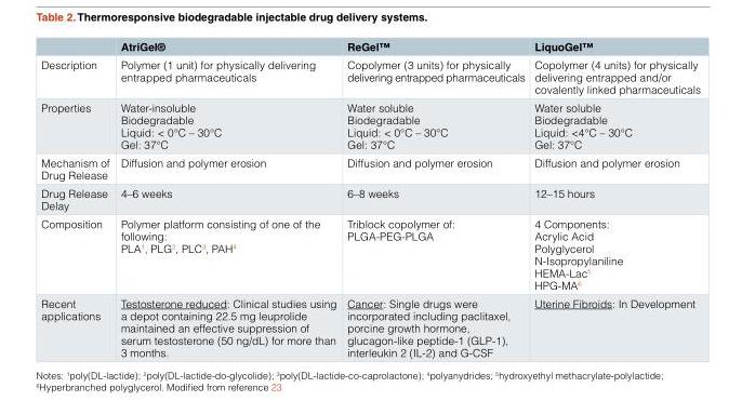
<table><thead><tr><td></td><td>AtriGel®</td><td>ReGel™</td><td>LiquoGel™</td></tr></thead><tbody><tr><td>Description</td><td>Polymer (1 unit) for physically delivering entrapped pharmaceuticals</td><td>Copolymer (3 units) for physically delivering entrapped pharmaceuticals</td><td>Copolymer (4 units) for physically delivering entrapped and/or covalently linked pharmaceuticals</td></tr><tr><td>Properties</td><td>Water-insoluble Biodegradable Liquid: &lt; 0°C – 30°C Gel: 37°C</td><td>Water soluble Biodegradable Liquid: &lt; 0°C – 30°C Gel: 37°C</td><td>Water soluble Biodegradable Liquid: &lt;4°C – 30°C Gel: 37°C</td></tr><tr><td>Mechanism of Drug Release</td><td>Diffusion and polymer erosion</td><td>Diffusion and polymer erosion</td><td>Diffusion and polymer erosion</td></tr><tr><td>Drug Release Delay</td><td>4–6 weeks</td><td>6–8 weeks</td><td>12–15 hours</td></tr><tr><td>Composition</td><td>Polymer platform consisting of one of the following: PLA<sup>1</sup>, PLG<sup>2</sup>, PLC<sup>3</sup>, PAH<sup>4</sup></td><td>Triblock copolymer of: PLGA-PEG-PLGA</td><td>4 Components: Acrylic Acid Polyglycerol N-Isopropylaniline HEMA-Lac<sup>5</sup> HPG-MA<sup>6</sup></td></tr><tr><td>Recent applications</td><td>Testosterone reduced: Clinical studies using a depot containing 22.5 mg leuprolide maintained an effective suppression of serum testosterone (50 ng/dL) for more than 3 months.</td><td>Cancer: Single drugs were incorporated including paclitaxel, porcine growth hormone, glucagon-like peptide-1 (GLP-1), interleukin 2 (IL-2) and G-CSF</td><td>Uterine Fibroids: In Development</td></tr></tbody></table>